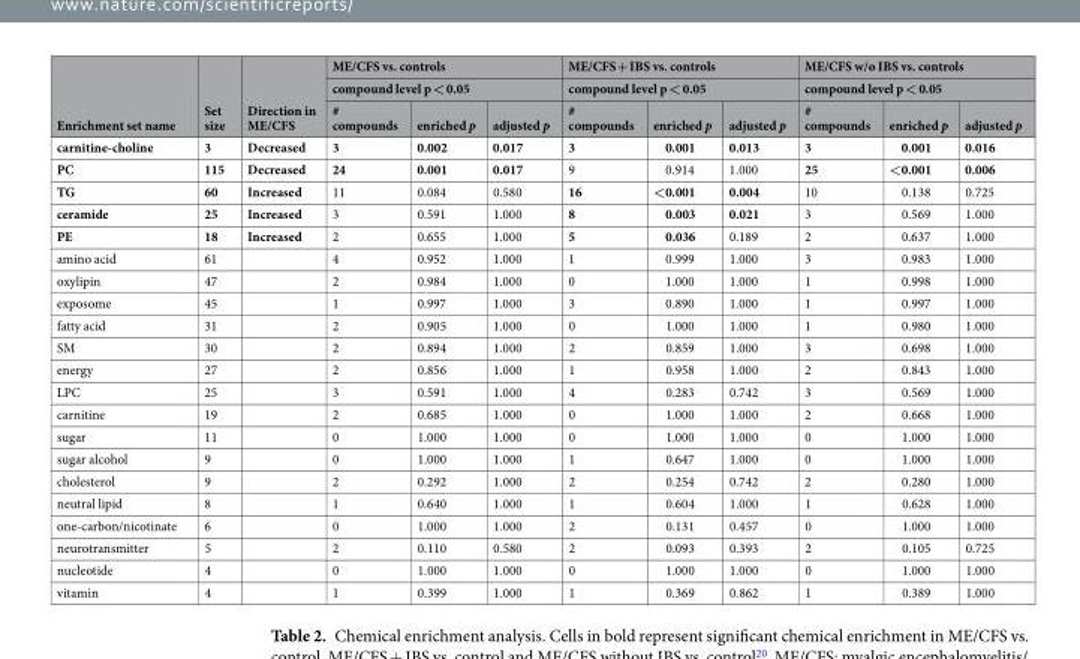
<table><thead><tr><td rowspan="3">Enrichment set name</td><td rowspan="3">Set size</td><td rowspan="3">Direction in ME/CFS</td><td rowspan="2" colspan="3">ME/CFS vs. controls compound level p &lt; 0.05</td><td rowspan="2" colspan="3">ME/CFS + IBS vs. controls compound level p &lt; 0.05</td><td rowspan="2" colspan="3">ME/CFS w/o IBS vs. controls compound level p &lt; 0.05</td></tr><tr></tr><tr><td># compounds</td><td>enriched p</td><td>adjusted p</td><td># compounds</td><td>enriched p</td><td>adjusted p</td><td># compounds</td><td>enriched p</td><td>adjusted p</td></tr></thead><tbody><tr><td>carnitine-choline</td><td>3</td><td>Decreased</td><td>3</td><td>0.002</td><td>0.017</td><td>3</td><td>0.001</td><td>0.013</td><td>3</td><td>0.001</td><td>0.016</td></tr><tr><td>PC</td><td>115</td><td>Decreased</td><td>24</td><td>0.001</td><td>0.017</td><td>9</td><td>0.914</td><td>1.000</td><td>25</td><td>&lt;0.001</td><td>0.006</td></tr><tr><td>TG</td><td>60</td><td>Increased</td><td>11</td><td>0.084</td><td>0.580</td><td>16</td><td>&lt;0.001</td><td>0.004</td><td>10</td><td>0.138</td><td>0.725</td></tr><tr><td>ceramide</td><td>25</td><td>Increased</td><td>3</td><td>0.591</td><td>1.000</td><td>8</td><td>0.003</td><td>0.021</td><td>3</td><td>0.569</td><td>1.000</td></tr><tr><td>PE</td><td>18</td><td>Increased</td><td>2</td><td>0.655</td><td>1.000</td><td>5</td><td>0.036</td><td>0.189</td><td>2</td><td>0.637</td><td>1.000</td></tr><tr><td>amino acid</td><td>61</td><td></td><td>4</td><td>0.952</td><td>1.000</td><td>1</td><td>0.999</td><td>1.000</td><td>3</td><td>0.983</td><td>1.000</td></tr><tr><td>oxylipin</td><td>47</td><td></td><td>2</td><td>0.984</td><td>1.000</td><td>0</td><td>1.000</td><td>1.000</td><td>1</td><td>0.998</td><td>1.000</td></tr><tr><td>exposome</td><td>45</td><td></td><td>1</td><td>0.997</td><td>1.000</td><td>3</td><td>0.890</td><td>1.000</td><td>1</td><td>0.997</td><td>1.000</td></tr><tr><td>fatty acid</td><td>31</td><td></td><td>2</td><td>0.905</td><td>1.000</td><td>0</td><td>1.000</td><td>1.000</td><td>1</td><td>0.980</td><td>1.000</td></tr><tr><td>SM</td><td>30</td><td></td><td>2</td><td>0.894</td><td>1.000</td><td>2</td><td>0.859</td><td>1.000</td><td>3</td><td>0.698</td><td>1.000</td></tr><tr><td>energy</td><td>27</td><td></td><td>2</td><td>0.856</td><td>1.000</td><td>1</td><td>0.958</td><td>1.000</td><td>2</td><td>0.843</td><td>1.000</td></tr><tr><td>LPC</td><td>25</td><td></td><td>3</td><td>0.591</td><td>1.000</td><td>4</td><td>0.283</td><td>0.742</td><td>3</td><td>0.569</td><td>1.000</td></tr><tr><td>carnitine</td><td>19</td><td></td><td>2</td><td>0.685</td><td>1.000</td><td>0</td><td>1.000</td><td>1.000</td><td>2</td><td>0.668</td><td>1.000</td></tr><tr><td>sugar</td><td>11</td><td></td><td>0</td><td>1.000</td><td>1.000</td><td>0</td><td>1.000</td><td>1.000</td><td>0</td><td>1.000</td><td>1.000</td></tr><tr><td>sugar alcohol</td><td>9</td><td></td><td>0</td><td>1.000</td><td>1.000</td><td>1</td><td>0.647</td><td>1.000</td><td>0</td><td>1.000</td><td>1.000</td></tr><tr><td>cholesterol</td><td>9</td><td></td><td>2</td><td>0.292</td><td>1.000</td><td>2</td><td>0.254</td><td>0.742</td><td>2</td><td>0.280</td><td>1.000</td></tr><tr><td>neutral lipid</td><td>8</td><td></td><td>1</td><td>0.640</td><td>1.000</td><td>1</td><td>0.604</td><td>1.000</td><td>1</td><td>0.628</td><td>1.000</td></tr><tr><td>one-carbon/nicotinate</td><td>6</td><td></td><td>0</td><td>1.000</td><td>1.000</td><td>2</td><td>0.131</td><td>0.457</td><td>0</td><td>1.000</td><td>1.000</td></tr><tr><td>neurotransmitter</td><td>5</td><td></td><td>2</td><td>0.110</td><td>0.580</td><td>2</td><td>0.093</td><td>0.393</td><td>2</td><td>0.105</td><td>0.725</td></tr><tr><td>nucleotide</td><td>4</td><td></td><td>0</td><td>1.000</td><td>1.000</td><td>0</td><td>1.000</td><td>1.000</td><td>0</td><td>1.000</td><td>1.000</td></tr><tr><td>vitamin</td><td>4</td><td></td><td>1</td><td>0.399</td><td>1.000</td><td>1</td><td>0.369</td><td>0.862</td><td>1</td><td>0.389</td><td>1.000</td></tr></tbody></table>